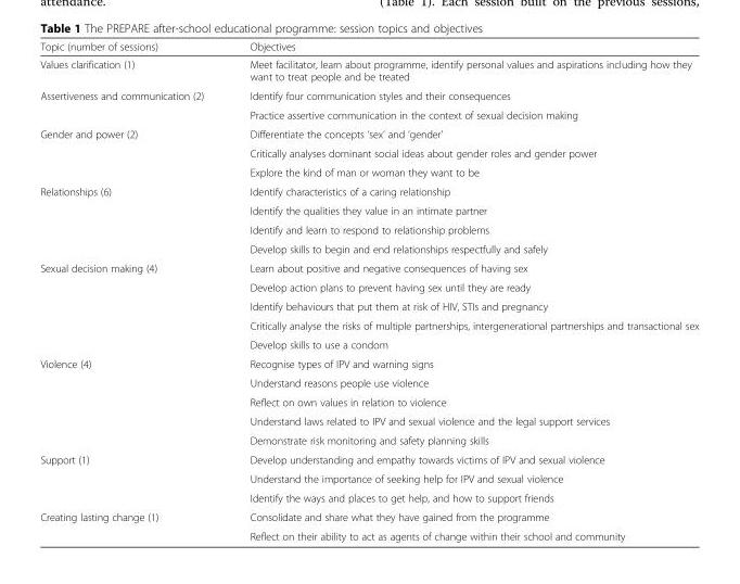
<table><thead><tr><td>Topic (number of sessions)</td><td>Objectives</td></tr></thead><tbody><tr><td>Values clarification (1)</td><td>Meet facilitator, learn about programme, identify personal values and aspirations including how they want to treat people and be treated</td></tr><tr><td rowspan="2">Assertiveness and communication (2)</td><td>Identify four communication styles and their consequences</td></tr><tr><td>Practice assertive communication in the context of sexual decision making</td></tr><tr><td rowspan="3">Gender and power (2)</td><td>Differentiate the concepts ‘sex’ and ‘gender’</td></tr><tr><td>Critically analyses dominant social ideas about gender roles and gender power</td></tr><tr><td>Explore the kind of man or woman they want to be</td></tr><tr><td rowspan="4">Relationships (6)</td><td>Identify characteristics of a caring relationship</td></tr><tr><td>Identify the qualities they value in an intimate partner</td></tr><tr><td>Identify and learn to respond to relationship problems</td></tr><tr><td>Develop skills to begin and end relationships respectfully and safely</td></tr><tr><td rowspan="5">Sexual decision making (4)</td><td>Learn about positive and negative consequences of having sex</td></tr><tr><td>Develop action plans to prevent having sex until they are ready</td></tr><tr><td>Identify behaviours that put them at risk of HIV, STIs and pregnancy</td></tr><tr><td>Critically analyse the risks of multiple partnerships, intergenerational partnerships and transactional sex</td></tr><tr><td>Develop skills to use a condom</td></tr><tr><td rowspan="5">Violence (4)</td><td>Recognise types of IPV and warning signs</td></tr><tr><td>Understand reasons people use violence</td></tr><tr><td>Reflect on own values in relation to violence</td></tr><tr><td>Understand laws related to IPV and sexual violence and the legal support services</td></tr><tr><td>Demonstrate risk monitoring and safety planning skills</td></tr><tr><td rowspan="3">Support (1)</td><td>Develop understanding and empathy towards victims of IPV and sexual violence</td></tr><tr><td>Understand the importance of seeking help for IPV and sexual violence</td></tr><tr><td>Identify the ways and places to get help, and how to support friends</td></tr><tr><td rowspan="2">Creating lasting change (1)</td><td>Consolidate and share what they have gained from the programme</td></tr><tr><td>Reflect on their ability to act as agents of change within their school and community</td></tr></tbody></table>